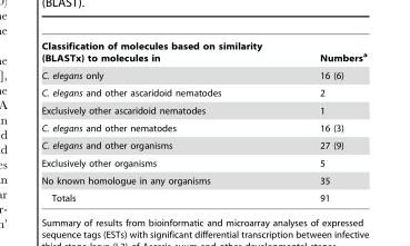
<table><thead><tr><td>Classification of molecules based on similarity (BLASTx) to molecules in</td><td>Numbers<sup>a</sup></td></tr></thead><tbody><tr><td>C. elegans only</td><td>16 (6)</td></tr><tr><td>C. elegans and other ascaridoid nematodes</td><td>2</td></tr><tr><td>Exclusively other ascaridoid nematodes</td><td>1</td></tr><tr><td>C. elegans and other nematodes</td><td>16 (3)</td></tr><tr><td>C. elegans and other organisms</td><td>27 (9)</td></tr><tr><td>Exclusively other organisms</td><td>5</td></tr><tr><td>No known homologue in any organisms</td><td>35</td></tr><tr><td>Totals</td><td>91</td></tr></tbody></table>